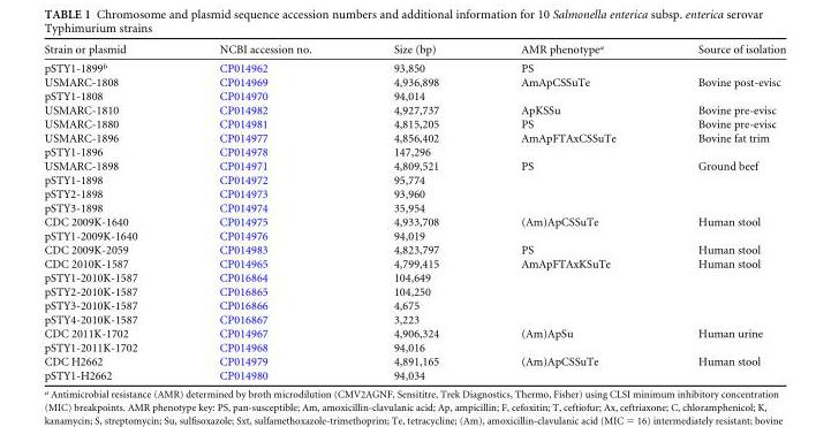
<table><thead><tr><td>Strain or plasmid</td><td>NCBI accession no.</td><td>Size (bp)</td><td>AMR phenotype<sup>a</sup></td><td>Source of isolation</td></tr></thead><tbody><tr><td>pSTY1-1899<sup>b</sup></td><td>CP014962</td><td>93,850</td><td>PS</td><td></td></tr><tr><td>USMARC-1808</td><td>CP014969</td><td>4,936,898</td><td>AmApCSSuTe</td><td>Bovine post-evisc</td></tr><tr><td>pSTY1-1808</td><td>CP014970</td><td>94,014</td><td></td><td></td></tr><tr><td>USMARC-1810</td><td>CP014982</td><td>4,927,737</td><td>ApKSSu</td><td>Bovine pre-evisc</td></tr><tr><td>USMARC-1880</td><td>CP014981</td><td>4,815,205</td><td>PS</td><td>Bovine pre-evisc</td></tr><tr><td>USMARC-1896</td><td>CP014977</td><td>4,856,402</td><td>AmApFTAxCSSuTe</td><td>Bovine fat trim</td></tr><tr><td>pSTY1-1896</td><td>CP014978</td><td>147,296</td><td></td><td></td></tr><tr><td>USMARC-1898</td><td>CP014971</td><td>4,809,521</td><td>PS</td><td>Ground beef</td></tr><tr><td>pSTY1-1898</td><td>CP014972</td><td>95,774</td><td></td><td></td></tr><tr><td>pSTY2-1898</td><td>CP014973</td><td>93,960</td><td></td><td></td></tr><tr><td>pSTY3-1898</td><td>CP014974</td><td>35,954</td><td></td><td></td></tr><tr><td>CDC 2009K-1640</td><td>CP014975</td><td>4,933,708</td><td>(Am)ApCSSuTe</td><td>Human stool</td></tr><tr><td>pSTY1-2009K-1640</td><td>CP014976</td><td>94,019</td><td></td><td></td></tr><tr><td>CDC 2009K-2059</td><td>CP014983</td><td>4,823,797</td><td>PS</td><td>Human stool</td></tr><tr><td>CDC 2010K-1587</td><td>CP014965</td><td>4,799,415</td><td>AmApFTAxKSuTe</td><td>Human stool</td></tr><tr><td>pSTY1-2010K-1587</td><td>CP016864</td><td>104,649</td><td></td><td></td></tr><tr><td>pSTY2-2010K-1587</td><td>CP016865</td><td>104,250</td><td></td><td></td></tr><tr><td>pSTY3-2010K-1587</td><td>CP016866</td><td>4,675</td><td></td><td></td></tr><tr><td>pSTY4-2010K-1587</td><td>CP016867</td><td>3,223</td><td></td><td></td></tr><tr><td>CDC 2011K-1702</td><td>CP014967</td><td>4,906,324</td><td>(Am)ApSu</td><td>Human urine</td></tr><tr><td>pSTY1-2011K-1702</td><td>CP014968</td><td>94,016</td><td></td><td></td></tr><tr><td>CDC H2662</td><td>CP014979</td><td>4,891,165</td><td>(Am)ApCSSuTe</td><td>Human stool</td></tr><tr><td>pSTY1-H2662</td><td>CP014980</td><td>94,034</td><td></td><td></td></tr></tbody></table>